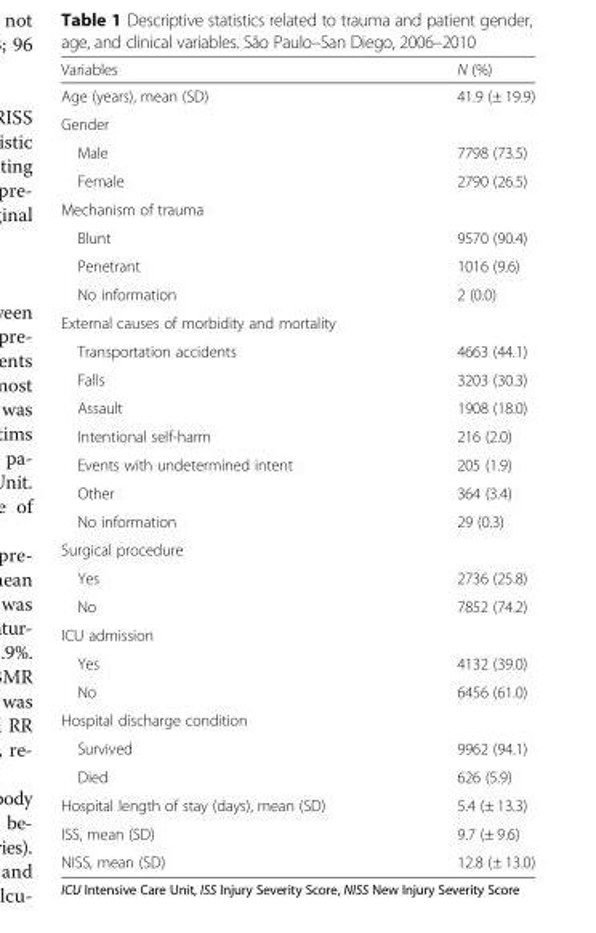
<table><thead><tr><td>Variables</td><td>N (%)</td></tr></thead><tbody><tr><td>Age (years), mean (SD)</td><td>41.9 (± 19.9)</td></tr><tr><td colspan="2">Gender</td></tr><tr><td>Male</td><td>7798 (73.5)</td></tr><tr><td>Female</td><td>2790 (26.5)</td></tr><tr><td colspan="2">Mechanism of trauma</td></tr><tr><td>Blunt</td><td>9570 (90.4)</td></tr><tr><td>Penetrant</td><td>1016 (9.6)</td></tr><tr><td>No information</td><td>2 (0.0)</td></tr><tr><td colspan="2">External causes of morbidity and mortality</td></tr><tr><td>Transportation accidents</td><td>4663 (44.1)</td></tr><tr><td>Falls</td><td>3203 (30.3)</td></tr><tr><td>Assault</td><td>1908 (18.0)</td></tr><tr><td>Intentional self-harm</td><td>216 (2.0)</td></tr><tr><td>Events with undetermined intent</td><td>205 (1.9)</td></tr><tr><td>Other</td><td>364 (3.4)</td></tr><tr><td>No information</td><td>29 (0.3)</td></tr><tr><td colspan="2">Surgical procedure</td></tr><tr><td>Yes</td><td>2736 (25.8)</td></tr><tr><td>No</td><td>7852 (74.2)</td></tr><tr><td colspan="2">ICU admission</td></tr><tr><td>Yes</td><td>4132 (39.0)</td></tr><tr><td>No</td><td>6456 (61.0)</td></tr><tr><td colspan="2">Hospital discharge condition</td></tr><tr><td>Survived</td><td>9962 (94.1)</td></tr><tr><td>Died</td><td>626 (5.9)</td></tr><tr><td>Hospital length of stay (days), mean (SD)</td><td>5.4 (± 13.3)</td></tr><tr><td>ISS, mean (SD)</td><td>9.7 (± 9.6)</td></tr><tr><td>NISS, mean (SD)</td><td>12.8 (± 13.0)</td></tr></tbody></table>